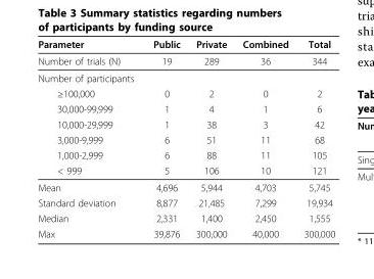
<table><thead><tr><td>Parameter</td><td>Public</td><td>Private</td><td>Combined</td><td>Total</td></tr></thead><tbody><tr><td>Number of trials (N)</td><td>19</td><td>289</td><td>36</td><td>344</td></tr><tr><td colspan="5">Number of participants</td></tr><tr><td>≥100,000</td><td>0</td><td>2</td><td>0</td><td>2</td></tr><tr><td>30,000-99,999</td><td>1</td><td>4</td><td>1</td><td>6</td></tr><tr><td>10,000-29,999</td><td>1</td><td>38</td><td>3</td><td>42</td></tr><tr><td>3,000-9,999</td><td>6</td><td>51</td><td>11</td><td>68</td></tr><tr><td>1,000-2,999</td><td>6</td><td>88</td><td>11</td><td>105</td></tr><tr><td>&lt; 999</td><td>5</td><td>106</td><td>10</td><td>121</td></tr><tr><td>Mean</td><td>4,696</td><td>5,944</td><td>4,703</td><td>5,745</td></tr><tr><td>Standard deviation</td><td>8,877</td><td>21,485</td><td>7,299</td><td>19,934</td></tr><tr><td>Median</td><td>2,331</td><td>1,400</td><td>2,450</td><td>1,555</td></tr><tr><td>Max</td><td>39,876</td><td>300,000</td><td>40,000</td><td>300,000</td></tr></tbody></table>